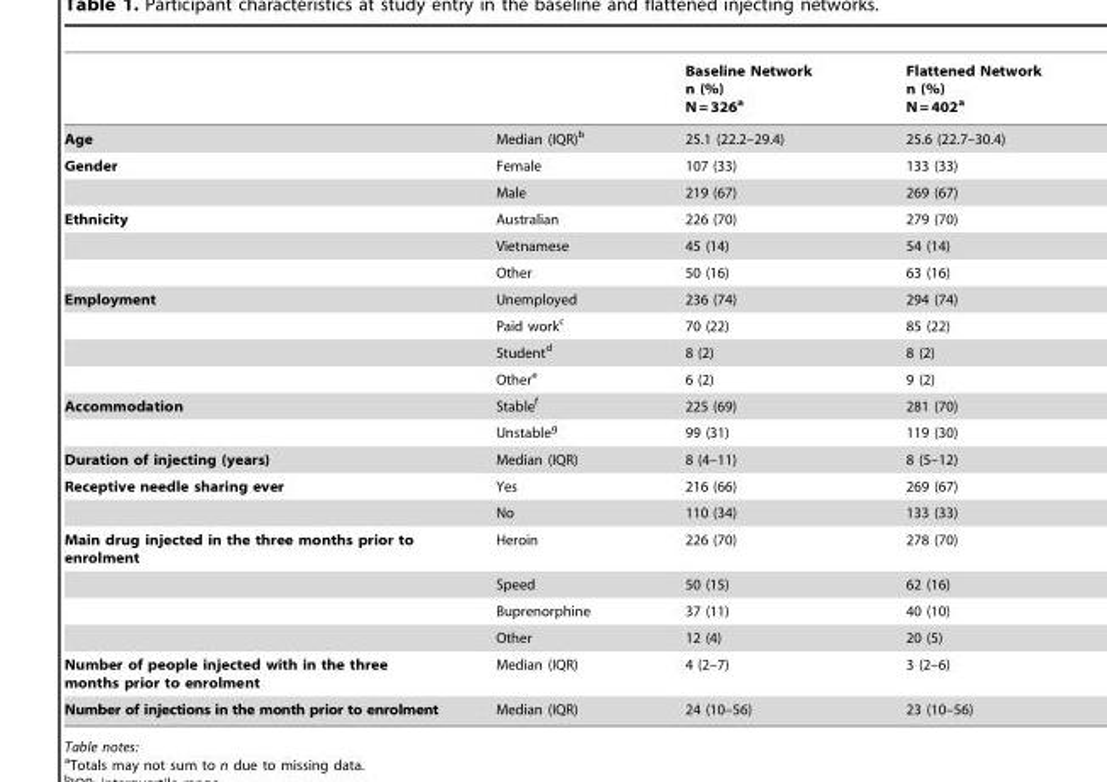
<table><thead><tr><td></td><td></td><td>Baseline Network n (%) N = 326<sup>a</sup></td><td>Flattened Network n (%) N = 402<sup>a</sup></td></tr></thead><tbody><tr><td>Age</td><td>Median (IQR)<sup>b</sup></td><td>25.1 (22.2–29.4)</td><td>25.6 (22.7–30.4)</td></tr><tr><td rowspan="2">Gender</td><td>Female</td><td>107 (33)</td><td>133 (33)</td></tr><tr><td>Male</td><td>219 (67)</td><td>269 (67)</td></tr><tr><td rowspan="3">Ethnicity</td><td>Australian</td><td>226 (70)</td><td>279 (70)</td></tr><tr><td>Vietnamese</td><td>45 (14)</td><td>54 (14)</td></tr><tr><td>Other</td><td>50 (16)</td><td>63 (16)</td></tr><tr><td rowspan="4">Employment</td><td>Unemployed</td><td>236 (74)</td><td>294 (74)</td></tr><tr><td>Paid work<sup>c</sup></td><td>70 (22)</td><td>85 (22)</td></tr><tr><td>Student<sup>d</sup></td><td>8 (2)</td><td>8 (2)</td></tr><tr><td>Other<sup>e</sup></td><td>6 (2)</td><td>9 (2)</td></tr><tr><td rowspan="2">Accommodation</td><td>Stable<sup>f</sup></td><td>225 (69)</td><td>281 (70)</td></tr><tr><td>Unstable<sup>g</sup></td><td>99 (31)</td><td>119 (30)</td></tr><tr><td>Duration of injecting (years)</td><td>Median (IQR)</td><td>8 (4–11)</td><td>8 (5–12)</td></tr><tr><td rowspan="2">Receptive needle sharing ever</td><td>Yes</td><td>216 (66)</td><td>269 (67)</td></tr><tr><td>No</td><td>110 (34)</td><td>133 (33)</td></tr><tr><td rowspan="4">Main drug injected in the three months prior to enrolment</td><td>Heroin</td><td>226 (70)</td><td>278 (70)</td></tr><tr><td>Speed</td><td>50 (15)</td><td>62 (16)</td></tr><tr><td>Buprenorphine</td><td>37 (11)</td><td>40 (10)</td></tr><tr><td>Other</td><td>12 (4)</td><td>20 (5)</td></tr><tr><td>Number of people injected with in the three months prior to enrolment</td><td>Median (IQR)</td><td>4 (2–7)</td><td>3 (2–6)</td></tr><tr><td>Number of injections in the month prior to enrolment</td><td>Median (IQR)</td><td>24 (10–56)</td><td>23 (10–56)</td></tr></tbody></table>